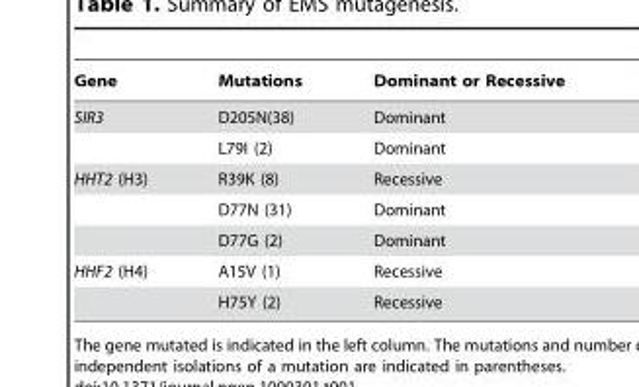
<table><thead><tr><td>Gene</td><td>Mutations</td><td>Dominant or Recessive</td></tr></thead><tbody><tr><td rowspan="2">SIR3</td><td>D205N(38)</td><td>Dominant</td></tr><tr><td>L79I (2)</td><td>Dominant</td></tr><tr><td rowspan="3">HHT2 (H3)</td><td>R39K (8)</td><td>Recessive</td></tr><tr><td>D77N (31)</td><td>Dominant</td></tr><tr><td>D77G (2)</td><td>Dominant</td></tr><tr><td rowspan="2">HHF2 (H4)</td><td>A15V (1)</td><td>Recessive</td></tr><tr><td>H75Y (2)</td><td>Recessive</td></tr></tbody></table>